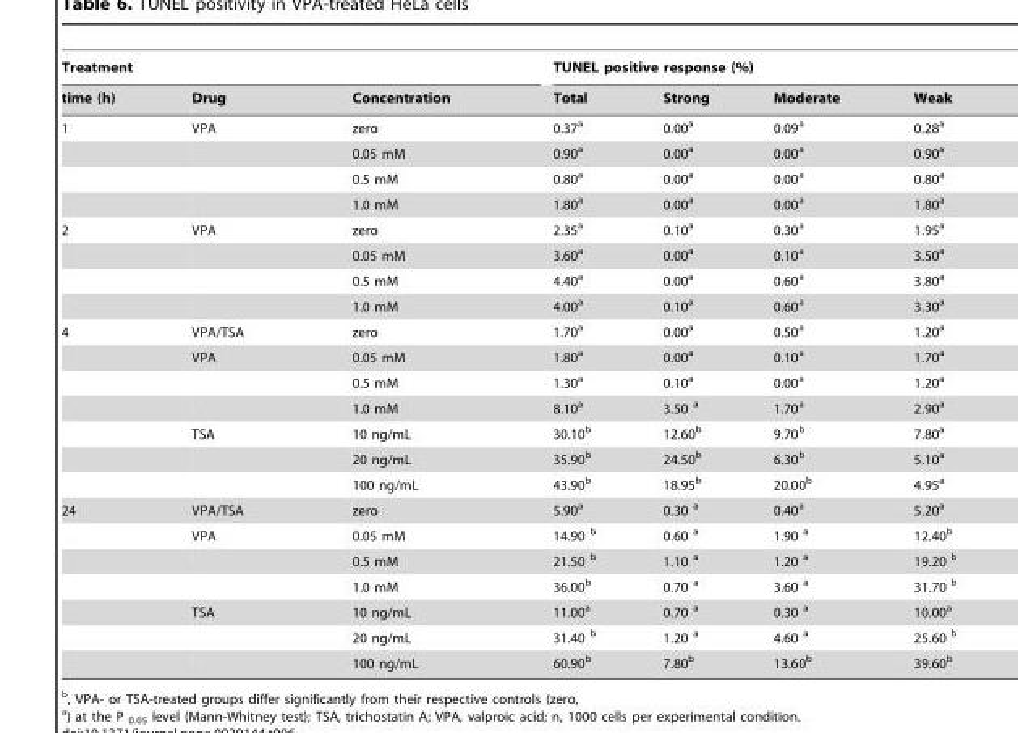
<table><thead><tr><td colspan="3">Treatment</td><td colspan="4">TUNEL positive response (%)</td></tr><tr><td>time (h)</td><td>Drug</td><td>Concentration</td><td>Total</td><td>Strong</td><td>Moderate</td><td>Weak</td></tr></thead><tbody><tr><td rowspan="4">1</td><td>VPA</td><td>zero</td><td>0.37<sup>a</sup></td><td>0.00<sup>a</sup></td><td>0.09<sup>a</sup></td><td>0.28<sup>a</sup></td></tr><tr><td></td><td>0.05 mM</td><td>0.90<sup>a</sup></td><td>0.00<sup>a</sup></td><td>0.00<sup>a</sup></td><td>0.90<sup>a</sup></td></tr><tr><td></td><td>0.5 mM</td><td>0.80<sup>a</sup></td><td>0.00<sup>a</sup></td><td>0.00<sup>a</sup></td><td>0.80<sup>a</sup></td></tr><tr><td></td><td>1.0 mM</td><td>1.80<sup>a</sup></td><td>0.00<sup>a</sup></td><td>0.00<sup>a</sup></td><td>1.80<sup>a</sup></td></tr><tr><td rowspan="4">2</td><td>VPA</td><td>zero</td><td>2.35<sup>a</sup></td><td>0.10<sup>a</sup></td><td>0.30<sup>a</sup></td><td>1.95<sup>a</sup></td></tr><tr><td></td><td>0.05 mM</td><td>3.60<sup>a</sup></td><td>0.00<sup>a</sup></td><td>0.10<sup>a</sup></td><td>3.50<sup>a</sup></td></tr><tr><td></td><td>0.5 mM</td><td>4.40<sup>a</sup></td><td>0.00<sup>a</sup></td><td>0.60<sup>a</sup></td><td>3.80<sup>a</sup></td></tr><tr><td></td><td>1.0 mM</td><td>4.00<sup>a</sup></td><td>0.10<sup>a</sup></td><td>0.60<sup>a</sup></td><td>3.30<sup>a</sup></td></tr><tr><td rowspan="7">4</td><td>VPA/TSA</td><td>zero</td><td>1.70<sup>a</sup></td><td>0.00<sup>a</sup></td><td>0.50<sup>a</sup></td><td>1.20<sup>a</sup></td></tr><tr><td>VPA</td><td>0.05 mM</td><td>1.80<sup>a</sup></td><td>0.00<sup>a</sup></td><td>0.10<sup>a</sup></td><td>1.70<sup>a</sup></td></tr><tr><td></td><td>0.5 mM</td><td>1.30<sup>a</sup></td><td>0.10<sup>a</sup></td><td>0.00<sup>a</sup></td><td>1.20<sup>a</sup></td></tr><tr><td></td><td>1.0 mM</td><td>8.10<sup>a</sup></td><td>3.50 a</td><td>1.70<sup>a</sup></td><td>2.90<sup>a</sup></td></tr><tr><td>TSA</td><td>10 ng/mL</td><td>30.10<sup>b</sup></td><td>12.60<sup>b</sup></td><td>9.70<sup>b</sup></td><td>7.80<sup>a</sup></td></tr><tr><td></td><td>20 ng/mL</td><td>35.90<sup>b</sup></td><td>24.50<sup>b</sup></td><td>6.30<sup>b</sup></td><td>5.10<sup>a</sup></td></tr><tr><td></td><td>100 ng/mL</td><td>43.90<sup>b</sup></td><td>18.95<sup>b</sup></td><td>20.00<sup>b</sup></td><td>4.95<sup>a</sup></td></tr><tr><td rowspan="7">24</td><td>VPA/TSA</td><td>zero</td><td>5.90<sup>a</sup></td><td>0.30 a</td><td>0.40<sup>a</sup></td><td>5.20<sup>a</sup></td></tr><tr><td>VPA</td><td>0.05 mM</td><td>14.90 b</td><td>0.60 a</td><td>1.90 a</td><td>12.40<sup>b</sup></td></tr><tr><td></td><td>0.5 mM</td><td>21.50 b</td><td>1.10 a</td><td>1.20 a</td><td>19.20 b</td></tr><tr><td></td><td>1.0 mM</td><td>36.00<sup>b</sup></td><td>0.70 a</td><td>3.60 a</td><td>31.70 b</td></tr><tr><td>TSA</td><td>10 ng/mL</td><td>11.00<sup>a</sup></td><td>0.70 a</td><td>0.30 a</td><td>10.00<sup>a</sup></td></tr><tr><td></td><td>20 ng/mL</td><td>31.40 b</td><td>1.20 a</td><td>4.60 a</td><td>25.60 b</td></tr><tr><td></td><td>100 ng/mL</td><td>60.90<sup>b</sup></td><td>7.80<sup>b</sup></td><td>13.60<sup>b</sup></td><td>39.60<sup>b</sup></td></tr></tbody></table>